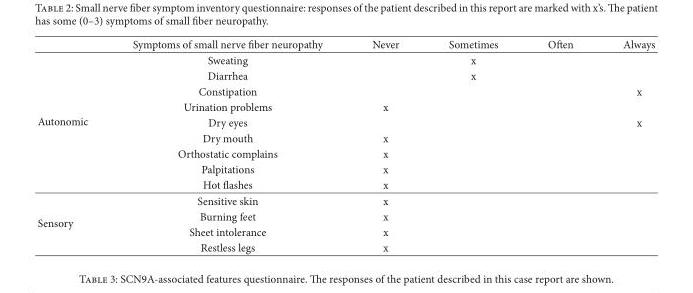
<table><thead><tr><td></td><td>Symptoms of small nerve fiber neuropathy</td><td>Never</td><td>Sometimes</td><td>Often</td><td>Always</td></tr></thead><tbody><tr><td rowspan="9">Autonomic</td><td>Sweating</td><td></td><td>x</td><td></td><td></td></tr><tr><td>Diarrhea</td><td></td><td>x</td><td></td><td></td></tr><tr><td>Constipation</td><td></td><td></td><td></td><td>x</td></tr><tr><td>Urination problems</td><td>x</td><td></td><td></td><td></td></tr><tr><td>Dry eyes</td><td></td><td></td><td></td><td>x</td></tr><tr><td>Dry mouth</td><td>x</td><td></td><td></td><td></td></tr><tr><td>Orthostatic complains</td><td>x</td><td></td><td></td><td></td></tr><tr><td>Palpitations</td><td>x</td><td></td><td></td><td></td></tr><tr><td>Hot flashes</td><td>x</td><td></td><td></td><td></td></tr><tr><td rowspan="4">Sensory</td><td>Sensitive skin</td><td>x</td><td></td><td></td><td></td></tr><tr><td>Burning feet</td><td>x</td><td></td><td></td><td></td></tr><tr><td>Sheet intolerance</td><td>x</td><td></td><td></td><td></td></tr><tr><td>Restless legs</td><td>x</td><td></td><td></td><td></td></tr></tbody></table>